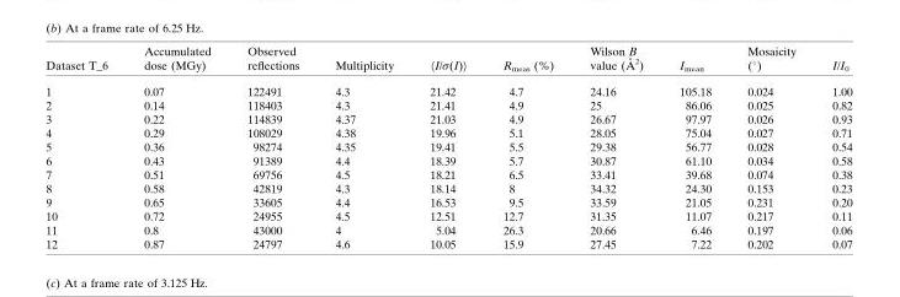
<table><thead><tr><td>Dataset T_6</td><td>Accumulated dose (MGy)</td><td>Observed reflections</td><td>Multiplicity</td><td>〈I/σ(I)〉</td><td>R<sub>meas</sub> (%)</td><td>Wilson B value (A˚ 2)</td><td>I<sub>mean</sub></td><td>Mosaicity (°)</td><td>I/I<sub>0</sub></td></tr></thead><tbody><tr><td>1</td><td>0.07</td><td>122491</td><td>4.3</td><td>21.42</td><td>4.7</td><td>24.16</td><td>105.18</td><td>0.024</td><td>1.00</td></tr><tr><td>2</td><td>0.14</td><td>118403</td><td>4.3</td><td>21.41</td><td>4.9</td><td>25</td><td>86.06</td><td>0.025</td><td>0.82</td></tr><tr><td>3</td><td>0.22</td><td>114839</td><td>4.37</td><td>21.03</td><td>4.9</td><td>26.67</td><td>97.97</td><td>0.026</td><td>0.93</td></tr><tr><td>4</td><td>0.29</td><td>108029</td><td>4.38</td><td>19.96</td><td>5.1</td><td>28.05</td><td>75.04</td><td>0.027</td><td>0.71</td></tr><tr><td>5</td><td>0.36</td><td>98274</td><td>4.35</td><td>19.41</td><td>5.5</td><td>29.38</td><td>56.77</td><td>0.028</td><td>0.54</td></tr><tr><td>6</td><td>0.43</td><td>91389</td><td>4.4</td><td>18.39</td><td>5.7</td><td>30.87</td><td>61.10</td><td>0.034</td><td>0.58</td></tr><tr><td>7</td><td>0.51</td><td>69756</td><td>4.5</td><td>18.21</td><td>6.5</td><td>33.41</td><td>39.68</td><td>0.074</td><td>0.38</td></tr><tr><td>8</td><td>0.58</td><td>42819</td><td>4.3</td><td>18.14</td><td>8</td><td>34.32</td><td>24.30</td><td>0.153</td><td>0.23</td></tr><tr><td>9</td><td>0.65</td><td>33605</td><td>4.4</td><td>16.53</td><td>9.5</td><td>33.59</td><td>21.05</td><td>0.231</td><td>0.20</td></tr><tr><td>10</td><td>0.72</td><td>24955</td><td>4.5</td><td>12.51</td><td>12.7</td><td>31.35</td><td>11.07</td><td>0.217</td><td>0.11</td></tr><tr><td>11</td><td>0.8</td><td>43000</td><td>4</td><td>5.04</td><td>26.3</td><td>20.66</td><td>6.46</td><td>0.197</td><td>0.06</td></tr><tr><td>12</td><td>0.87</td><td>24797</td><td>4.6</td><td>10.05</td><td>15.9</td><td>27.45</td><td>7.22</td><td>0.202</td><td>0.07</td></tr></tbody></table>